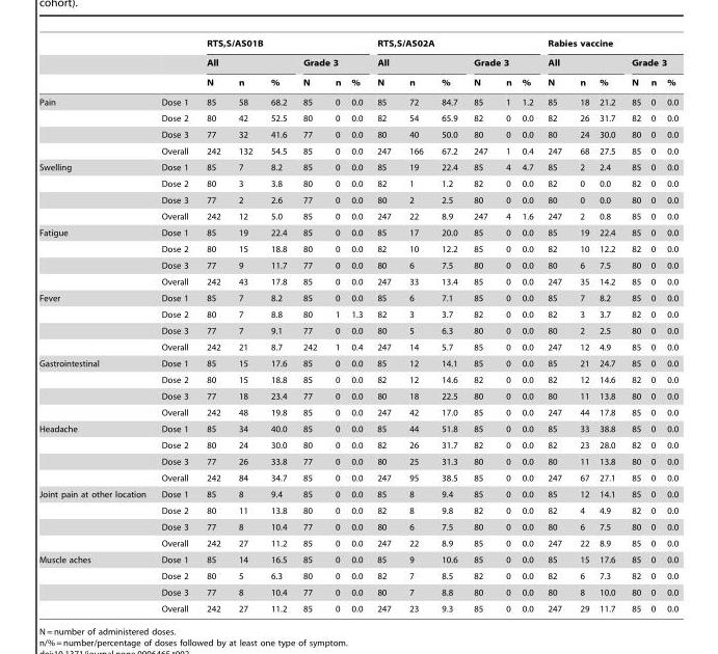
<table><thead><tr><td rowspan="3"></td><td rowspan="3"></td><td colspan="6">RTS,S/AS01B</td><td colspan="6">RTS,S/AS02A</td><td colspan="6">Rabies vaccine</td></tr><tr><td colspan="3">All</td><td colspan="3">Grade 3</td><td colspan="3">All</td><td colspan="3">Grade 3</td><td colspan="3">All</td><td colspan="3">Grade 3</td></tr><tr><td>N</td><td>n</td><td>%</td><td>N</td><td>n</td><td>%</td><td>N</td><td>n</td><td>%</td><td>N</td><td>n</td><td>%</td><td>N</td><td>n</td><td>%</td><td>N</td><td>n</td><td>%</td></tr></thead><tbody><tr><td rowspan="4">Pain</td><td>Dose 1</td><td>85</td><td>58</td><td>68.2</td><td>85</td><td>0</td><td>0.0</td><td>85</td><td>72</td><td>84.7</td><td>85</td><td>1</td><td>1.2</td><td>85</td><td>18</td><td>21.2</td><td>85</td><td>0</td><td>0.0</td></tr><tr><td>Dose 2</td><td>80</td><td>42</td><td>52.5</td><td>80</td><td>0</td><td>0.0</td><td>82</td><td>54</td><td>65.9</td><td>82</td><td>0</td><td>0.0</td><td>82</td><td>26</td><td>31.7</td><td>82</td><td>0</td><td>0.0</td></tr><tr><td>Dose 3</td><td>77</td><td>32</td><td>41.6</td><td>77</td><td>0</td><td>0.0</td><td>80</td><td>40</td><td>50.0</td><td>80</td><td>0</td><td>0.0</td><td>80</td><td>24</td><td>30.0</td><td>80</td><td>0</td><td>0.0</td></tr><tr><td>Overall</td><td>242</td><td>132</td><td>54.5</td><td>85</td><td>0</td><td>0.0</td><td>247</td><td>166</td><td>67.2</td><td>247</td><td>1</td><td>0.4</td><td>247</td><td>68</td><td>27.5</td><td>85</td><td>0</td><td>0.0</td></tr><tr><td rowspan="4">Swelling</td><td>Dose 1</td><td>85</td><td>7</td><td>8.2</td><td>85</td><td>0</td><td>0.0</td><td>85</td><td>19</td><td>22.4</td><td>85</td><td>4</td><td>4.7</td><td>85</td><td>2</td><td>2.4</td><td>85</td><td>0</td><td>0.0</td></tr><tr><td>Dose 2</td><td>80</td><td>3</td><td>3.8</td><td>80</td><td>0</td><td>0.0</td><td>82</td><td>1</td><td>1.2</td><td>82</td><td>0</td><td>0.0</td><td>82</td><td>0</td><td>0.0</td><td>82</td><td>0</td><td>0.0</td></tr><tr><td>Dose 3</td><td>77</td><td>2</td><td>2.6</td><td>77</td><td>0</td><td>0.0</td><td>80</td><td>2</td><td>2.5</td><td>80</td><td>0</td><td>0.0</td><td>80</td><td>0</td><td>0.0</td><td>80</td><td>0</td><td>0.0</td></tr><tr><td>Overall</td><td>242</td><td>12</td><td>5.0</td><td>85</td><td>0</td><td>0.0</td><td>247</td><td>22</td><td>8.9</td><td>247</td><td>4</td><td>1.6</td><td>247</td><td>2</td><td>0.8</td><td>85</td><td>0</td><td>0.0</td></tr><tr><td rowspan="4">Fatigue</td><td>Dose 1</td><td>85</td><td>19</td><td>22.4</td><td>85</td><td>0</td><td>0.0</td><td>85</td><td>17</td><td>20.0</td><td>85</td><td>0</td><td>0.0</td><td>85</td><td>19</td><td>22.4</td><td>85</td><td>0</td><td>0.0</td></tr><tr><td>Dose 2</td><td>80</td><td>15</td><td>18.8</td><td>80</td><td>0</td><td>0.0</td><td>82</td><td>10</td><td>12.2</td><td>85</td><td>0</td><td>0.0</td><td>82</td><td>10</td><td>12.2</td><td>82</td><td>0</td><td>0.0</td></tr><tr><td>Dose 3</td><td>77</td><td>9</td><td>11.7</td><td>77</td><td>0</td><td>0.0</td><td>80</td><td>6</td><td>7.5</td><td>80</td><td>0</td><td>0.0</td><td>80</td><td>6</td><td>7.5</td><td>80</td><td>0</td><td>0.0</td></tr><tr><td>Overall</td><td>242</td><td>43</td><td>17.8</td><td>85</td><td>0</td><td>0.0</td><td>247</td><td>33</td><td>13.4</td><td>85</td><td>0</td><td>0.0</td><td>247</td><td>35</td><td>14.2</td><td>85</td><td>0</td><td>0.0</td></tr><tr><td rowspan="4">Fever</td><td>Dose 1</td><td>85</td><td>7</td><td>8.2</td><td>85</td><td>0</td><td>0.0</td><td>85</td><td>6</td><td>7.1</td><td>85</td><td>0</td><td>0.0</td><td>85</td><td>7</td><td>8.2</td><td>85</td><td>0</td><td>0.0</td></tr><tr><td>Dose 2</td><td>80</td><td>7</td><td>8.8</td><td>80</td><td>1</td><td>1.3</td><td>82</td><td>3</td><td>3.7</td><td>82</td><td>0</td><td>0.0</td><td>82</td><td>3</td><td>3.7</td><td>82</td><td>0</td><td>0.0</td></tr><tr><td>Dose 3</td><td>77</td><td>7</td><td>9.1</td><td>77</td><td>0</td><td>0.0</td><td>80</td><td>5</td><td>6.3</td><td>80</td><td>0</td><td>0.0</td><td>80</td><td>2</td><td>2.5</td><td>80</td><td>0</td><td>0.0</td></tr><tr><td>Overall</td><td>242</td><td>21</td><td>8.7</td><td>242</td><td>1</td><td>0.4</td><td>247</td><td>14</td><td>5.7</td><td>85</td><td>0</td><td>0.0</td><td>247</td><td>12</td><td>4.9</td><td>85</td><td>0</td><td>0.0</td></tr><tr><td rowspan="4">Gastrointestinal</td><td>Dose 1</td><td>85</td><td>15</td><td>17.6</td><td>85</td><td>0</td><td>0.0</td><td>85</td><td>12</td><td>14.1</td><td>85</td><td>0</td><td>0.0</td><td>85</td><td>21</td><td>24.7</td><td>85</td><td>0</td><td>0.0</td></tr><tr><td>Dose 2</td><td>80</td><td>15</td><td>18.8</td><td>85</td><td>0</td><td>0.0</td><td>82</td><td>12</td><td>14.6</td><td>82</td><td>0</td><td>0.0</td><td>82</td><td>12</td><td>14.6</td><td>82</td><td>0</td><td>0.0</td></tr><tr><td>Dose 3</td><td>77</td><td>18</td><td>23.4</td><td>77</td><td>0</td><td>0.0</td><td>80</td><td>18</td><td>22.5</td><td>80</td><td>0</td><td>0.0</td><td>80</td><td>11</td><td>13.8</td><td>80</td><td>0</td><td>0.0</td></tr><tr><td>Overall</td><td>242</td><td>48</td><td>19.8</td><td>85</td><td>0</td><td>0.0</td><td>247</td><td>42</td><td>17.0</td><td>85</td><td>0</td><td>0.0</td><td>247</td><td>44</td><td>17.8</td><td>85</td><td>0</td><td>0.0</td></tr><tr><td rowspan="4">Headache</td><td>Dose 1</td><td>85</td><td>34</td><td>40.0</td><td>85</td><td>0</td><td>0.0</td><td>85</td><td>44</td><td>51.8</td><td>85</td><td>0</td><td>0.0</td><td>85</td><td>33</td><td>38.8</td><td>85</td><td>0</td><td>0.0</td></tr><tr><td>Dose 2</td><td>80</td><td>24</td><td>30.0</td><td>80</td><td>0</td><td>0.0</td><td>82</td><td>26</td><td>31.7</td><td>82</td><td>0</td><td>0.0</td><td>82</td><td>23</td><td>28.0</td><td>82</td><td>0</td><td>0.0</td></tr><tr><td>Dose 3</td><td>77</td><td>26</td><td>33.8</td><td>77</td><td>0</td><td>0.0</td><td>80</td><td>25</td><td>31.3</td><td>80</td><td>0</td><td>0.0</td><td>80</td><td>11</td><td>13.8</td><td>80</td><td>0</td><td>0.0</td></tr><tr><td>Overall</td><td>242</td><td>84</td><td>34.7</td><td>85</td><td>0</td><td>0.0</td><td>247</td><td>95</td><td>38.5</td><td>85</td><td>0</td><td>0.0</td><td>247</td><td>67</td><td>27.1</td><td>85</td><td>0</td><td>0.0</td></tr><tr><td rowspan="4">Joint pain at other location</td><td>Dose 1</td><td>85</td><td>8</td><td>9.4</td><td>85</td><td>0</td><td>0.0</td><td>85</td><td>8</td><td>9.4</td><td>85</td><td>0</td><td>0.0</td><td>85</td><td>12</td><td>14.1</td><td>85</td><td>0</td><td>0.0</td></tr><tr><td>Dose 2</td><td>80</td><td>11</td><td>13.8</td><td>80</td><td>0</td><td>0.0</td><td>82</td><td>8</td><td>9.8</td><td>82</td><td>0</td><td>0.0</td><td>82</td><td>4</td><td>4.9</td><td>82</td><td>0</td><td>0.0</td></tr><tr><td>Dose 3</td><td>77</td><td>8</td><td>10.4</td><td>77</td><td>0</td><td>0.0</td><td>80</td><td>6</td><td>7.5</td><td>80</td><td>0</td><td>0.0</td><td>80</td><td>6</td><td>7.5</td><td>80</td><td>0</td><td>0.0</td></tr><tr><td>Overall</td><td>242</td><td>27</td><td>11.2</td><td>85</td><td>0</td><td>0.0</td><td>247</td><td>22</td><td>8.9</td><td>85</td><td>0</td><td>0.0</td><td>247</td><td>22</td><td>8.9</td><td>85</td><td>0</td><td>0.0</td></tr><tr><td rowspan="4">Muscle aches</td><td>Dose 1</td><td>85</td><td>14</td><td>16.5</td><td>85</td><td>0</td><td>0.0</td><td>85</td><td>9</td><td>10.6</td><td>85</td><td>0</td><td>0.0</td><td>85</td><td>15</td><td>17.6</td><td>85</td><td>0</td><td>0.0</td></tr><tr><td>Dose 2</td><td>80</td><td>5</td><td>6.3</td><td>80</td><td>0</td><td>0.0</td><td>82</td><td>7</td><td>8.5</td><td>82</td><td>0</td><td>0.0</td><td>82</td><td>6</td><td>7.3</td><td>82</td><td>0</td><td>0.0</td></tr><tr><td>Dose 3</td><td>77</td><td>8</td><td>10.4</td><td>77</td><td>0</td><td>0.0</td><td>80</td><td>7</td><td>8.8</td><td>80</td><td>0</td><td>0.0</td><td>80</td><td>8</td><td>10.0</td><td>80</td><td>0</td><td>0.0</td></tr><tr><td>Overall</td><td>242</td><td>27</td><td>11.2</td><td>85</td><td>0</td><td>0.0</td><td>247</td><td>23</td><td>9.3</td><td>85</td><td>0</td><td>0.0</td><td>247</td><td>29</td><td>11.7</td><td>85</td><td>0</td><td>0.0</td></tr></tbody></table>